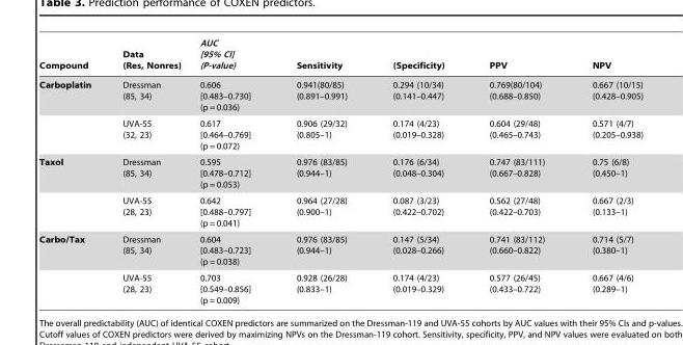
<table><thead><tr><td>Compound</td><td>Data (Res, Nonres)</td><td>AUC [95% CI] (P-value)</td><td>Sensitivity</td><td>(Specificity)</td><td>PPV</td><td>NPV</td></tr></thead><tbody><tr><td rowspan="2">Carboplatin</td><td>Dressman (85, 34)</td><td>0.606 [0.483–0.730] (p = 0.036)</td><td>0.941(80/85) (0.891–0.991)</td><td>0.294 (10/34) (0.141–0.447)</td><td>0.769(80/104) (0.688–0.850)</td><td>0.667 (10/15) (0.428–0.905)</td></tr><tr><td>UVA-55 (32, 23)</td><td>0.617 [0.464–0.769] (p = 0.072)</td><td>0.906 (29/32) (0.805–1)</td><td>0.174 (4/23) (0.019–0.328)</td><td>0.604 (29/48) (0.465–0.743)</td><td>0.571 (4/7) (0.205–0.938)</td></tr><tr><td rowspan="2">Taxol</td><td>Dressman (85, 34)</td><td>0.595 [0.478–0.712] (p = 0.053)</td><td>0.976 (83/85) (0.944–1)</td><td>0.176 (6/34) (0.048–0.304)</td><td>0.747 (83/111) (0.667–0.828)</td><td>0.75 (6/8) (0.450–1)</td></tr><tr><td>UVA-55 (28, 23)</td><td>0.642 [0.488–0.797] (p = 0.041)</td><td>0.964 (27/28) (0.900–1)</td><td>0.087 (3/23) (0.422–0.702)</td><td>0.562 (27/48) (0.422–0.703)</td><td>0.667 (2/3) (0.133–1)</td></tr><tr><td rowspan="2">Carbo/Tax</td><td>Dressman (85, 34)</td><td>0.604 [0.483–0.723] (p = 0.038)</td><td>0.976 (83/85) (0.944–1)</td><td>0.147 (5/34) (0.028–0.266)</td><td>0.741 (83/112) (0.660–0.822)</td><td>0.714 (5/7) (0.380–1)</td></tr><tr><td>UVA-55 (28, 23)</td><td>0.703 [0.549–0.856] (p = 0.009)</td><td>0.928 (26/28) (0.833–1)</td><td>0.174 (4/23) (0.019–0.329)</td><td>0.577 (26/45) (0.433–0.722)</td><td>0.667 (4/6) (0.289–1)</td></tr></tbody></table>